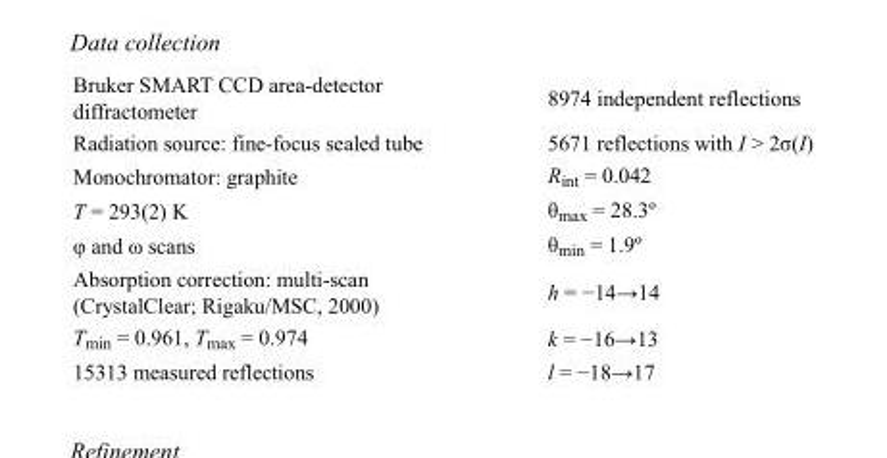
<table><tbody><tr><td>Bruker SMART CCD area-detector diffractometer</td><td>8974 independent reflections</td></tr><tr><td>Radiation source: fine-focus sealed tube</td><td>5671 reflections with I &gt; 2σ(I)</td></tr><tr><td>Monochromator: graphite</td><td>R<sub>int</sub> = 0.042</td></tr><tr><td>T = 293(2) K</td><td>θ<sub>max</sub> = 28.3º</td></tr><tr><td>φ and ω scans</td><td>θ<sub>min</sub> = 1.9º</td></tr><tr><td>Absorption correction: multi-scan (CrystalClear; Rigaku/MSC, 2000)</td><td>h = −14→14</td></tr><tr><td>T<sub>min</sub> = 0.961, T<sub>max</sub> = 0.974</td><td>k = −16→13</td></tr><tr><td>15313 measured reflections</td><td>l = −18→17</td></tr></tbody></table>